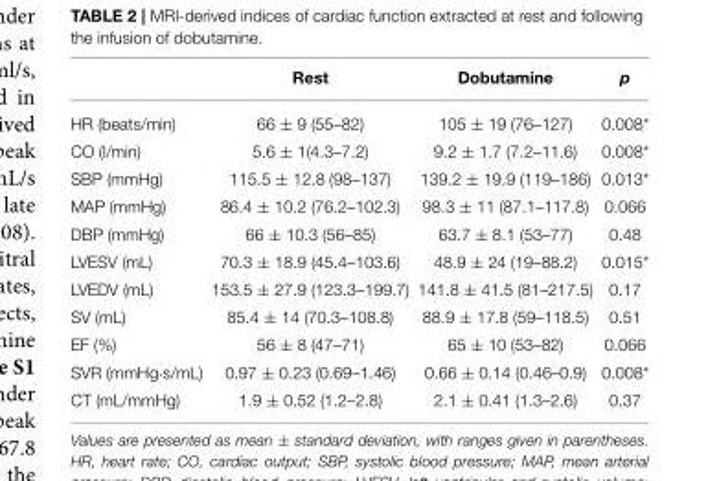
<table><thead><tr><td></td><td>Rest</td><td>Dobutamine</td><td>p</td></tr></thead><tbody><tr><td>HR (beats/min)</td><td>66 ± 9 (55–82)</td><td>105 ± 19 (76–127)</td><td>0.008*</td></tr><tr><td>CO (l/min)</td><td>5.6 ± 1(4.3–7.2)</td><td>9.2 ± 1.7 (7.2–11.6)</td><td>0.008*</td></tr><tr><td>SBP (mmHg)</td><td>115.5 ± 12.8 (98–137)</td><td>139.2 ± 19.9 (119–186)</td><td>0.013*</td></tr><tr><td>MAP (mmHg)</td><td>86.4 ± 10.2 (76.2–102.3)</td><td>98.3 ± 11 (87.1–117.8)</td><td>0.066</td></tr><tr><td>DBP (mmHg)</td><td>66 ± 10.3 (56–85)</td><td>63.7 ± 8.1 (53–77)</td><td>0.48</td></tr><tr><td>LVESV (mL)</td><td>70.3 ± 18.9 (45.4–103.6)</td><td>48.9 ± 24 (19–88.2)</td><td>0.015*</td></tr><tr><td>LVEDV (mL)</td><td>153.5 ± 27.9 (123.3–199.7)</td><td>141.8 ± 41.5 (81–217.5)</td><td>0.17</td></tr><tr><td>SV (mL)</td><td>85.4 ± 14 (70.3–108.8)</td><td>88.9 ± 17.8 (59–118.5)</td><td>0.51</td></tr><tr><td>EF (%)</td><td>56 ± 8 (47–71)</td><td>65 ± 10 (53–82)</td><td>0.066</td></tr><tr><td>SVR (mmHg·s/mL)</td><td>0.97 ± 0.23 (0.69–1.46)</td><td>0.66 ± 0.14 (0.46–0.9)</td><td>0.008*</td></tr><tr><td>CT (mL/mmHg)</td><td>1.9 ± 0.52 (1.2–2.8)</td><td>2.1 ± 0.41 (1.3–2.6)</td><td>0.37</td></tr></tbody></table>